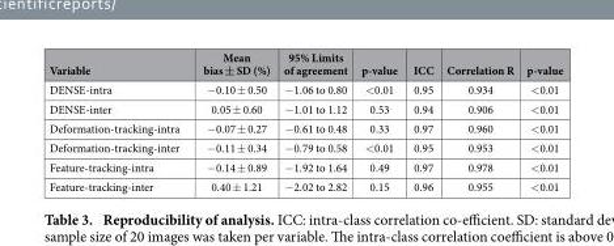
<table><thead><tr><td>Variable</td><td>Mean bias ± SD (%)</td><td>95% Limits of agreement</td><td>p-value</td><td>ICC</td><td>Correlation R</td><td>p-value</td></tr></thead><tbody><tr><td>DENSE-intra</td><td>− 0.10 ± 0.50</td><td>− 1.06 to 0.80</td><td>&lt; 0.01</td><td>0.95</td><td>0.934</td><td>&lt; 0.01</td></tr><tr><td>DENSE-inter</td><td>0.05 ± 0.60</td><td>− 1.01 to 1.12</td><td>0.53</td><td>0.94</td><td>0.906</td><td>&lt; 0.01</td></tr><tr><td>Deformation-tracking-intra</td><td>− 0.07 ± 0.27</td><td>− 0.61 to 0.48</td><td>0.33</td><td>0.97</td><td>0.960</td><td>&lt; 0.01</td></tr><tr><td>Deformation-tracking-inter</td><td>− 0.11 ± 0.34</td><td>− 0.79 to 0.58</td><td>&lt; 0.01</td><td>0.95</td><td>0.953</td><td>&lt; 0.01</td></tr><tr><td>Feature-tracking-intra</td><td>− 0.14 ± 0.89</td><td>− 1.92 to 1.64</td><td>0.49</td><td>0.97</td><td>0.978</td><td>&lt; 0.01</td></tr><tr><td>Feature-tracking-inter</td><td>0.40 ± 1.21</td><td>− 2.02 to 2.82</td><td>0.15</td><td>0.96</td><td>0.955</td><td>&lt; 0.01</td></tr></tbody></table>